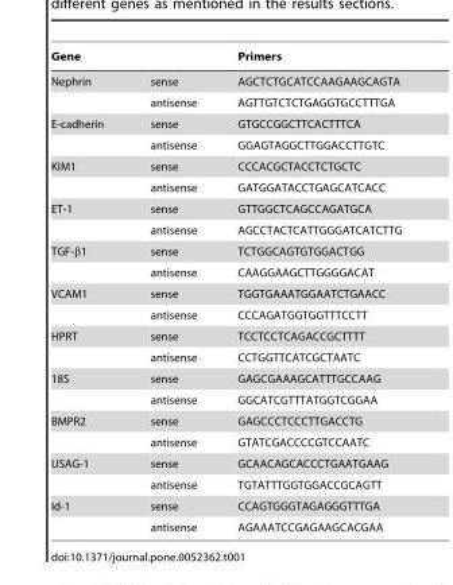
<table><thead><tr><td colspan="2">Gene</td><td rowspan="2">Primers AGCTCTGCATCCAAGAAGCAGTA</td></tr><tr><td>Nephrin</td><td>sense</td></tr></thead><tbody><tr><td></td><td>antisense</td><td>AGTTGTCTCTGAGGTGCCTTTGA</td></tr><tr><td rowspan="2">E-cadherin</td><td>sense</td><td>GTGCCGGCTTCACTTTCA</td></tr><tr><td>antisense</td><td>GGAGTAGGCTTGGACCTTGTC</td></tr><tr><td rowspan="2">KIM1</td><td>sense</td><td>CCCACGCTACCTCTGCTC</td></tr><tr><td>antisense</td><td>GATGGATACCTGAGCATCACC</td></tr><tr><td rowspan="2">ET-1</td><td>sense</td><td>GTTGGCTCAGCCAGATGCA</td></tr><tr><td>antisense</td><td>AGCCTACTCATTGGGATCATCTTG</td></tr><tr><td rowspan="2">TGF-β1</td><td>sense</td><td>TCTGGCAGTGTGGACTGG</td></tr><tr><td>antisense</td><td>CAAGGAAGCTTGGGGACAT</td></tr><tr><td rowspan="2">VCAM1</td><td>sense</td><td>TGGTGAAATGGAATCTGAACC</td></tr><tr><td>antisense</td><td>CCCAGATGGTGGTTTCCTT</td></tr><tr><td rowspan="2">HPRT</td><td>sense</td><td>TCCTCCTCAGACCGCTTTT</td></tr><tr><td>antisense</td><td>CCTGGTTCATCGCTAATC</td></tr><tr><td rowspan="2">18S</td><td>sense</td><td>GAGCGAAAGCATTTGCCAAG</td></tr><tr><td>antisense</td><td>GGCATCGTTTATGGTCGGAA</td></tr><tr><td rowspan="2">BMPR2</td><td>sense</td><td>GAGCCCTCCCTTGACCTG</td></tr><tr><td>antisense</td><td>GTATCGACCCCGTCCAATC</td></tr><tr><td rowspan="2">USAG-1</td><td>sense</td><td>GCAACAGCACCCTGAATGAAG</td></tr><tr><td>antisense</td><td>TGTATTTGGTGGACCGCAGTT</td></tr><tr><td rowspan="2">Id-1</td><td>sense</td><td>CCAGTGGGTAGAGGGTTTGA</td></tr><tr><td>antisense</td><td>AGAAATCCGAGAAGCACGAA</td></tr></tbody></table>